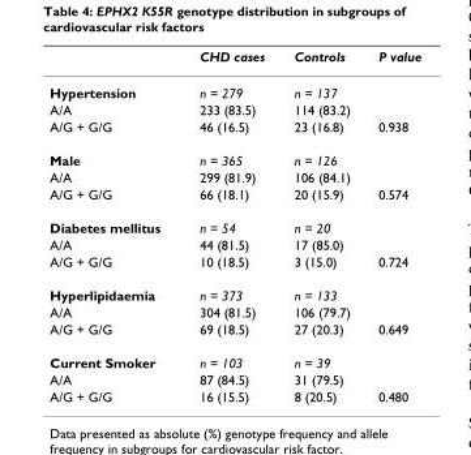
<table><thead><tr><td></td><td>CHD cases</td><td>Controls</td><td>P value</td></tr></thead><tbody><tr><td>Hypertension</td><td>n = 279</td><td>n = 137</td><td></td></tr><tr><td>A/A</td><td>233 (83.5)</td><td>114 (83.2)</td><td></td></tr><tr><td>A/G + G/G</td><td>46 (16.5)</td><td>23 (16.8)</td><td>0.938</td></tr><tr><td>Male</td><td>n = 365</td><td>n = 126</td><td></td></tr><tr><td>A/A</td><td>299 (81.9)</td><td>106 (84.1)</td><td></td></tr><tr><td>A/G + G/G</td><td>66 (18.1)</td><td>20 (15.9)</td><td>0.574</td></tr><tr><td>Diabetes mellitus</td><td>n = 54</td><td>n = 20</td><td></td></tr><tr><td>A/A</td><td>44 (81.5)</td><td>17 (85.0)</td><td></td></tr><tr><td>A/G + G/G</td><td>10 (18.5)</td><td>3 (15.0)</td><td>0.724</td></tr><tr><td>Hyperlipidaemia</td><td>n = 373</td><td>n = 133</td><td></td></tr><tr><td>A/A</td><td>304 (81.5)</td><td>106 (79.7)</td><td></td></tr><tr><td>A/G + G/G</td><td>69 (18.5)</td><td>27 (20.3)</td><td>0.649</td></tr><tr><td>Current Smoker</td><td>n = 103</td><td>n = 39</td><td></td></tr><tr><td>A/A</td><td>87 (84.5)</td><td>31 (79.5)</td><td></td></tr><tr><td>A/G + G/G</td><td>16 (15.5)</td><td>8 (20.5)</td><td>0.480</td></tr></tbody></table>